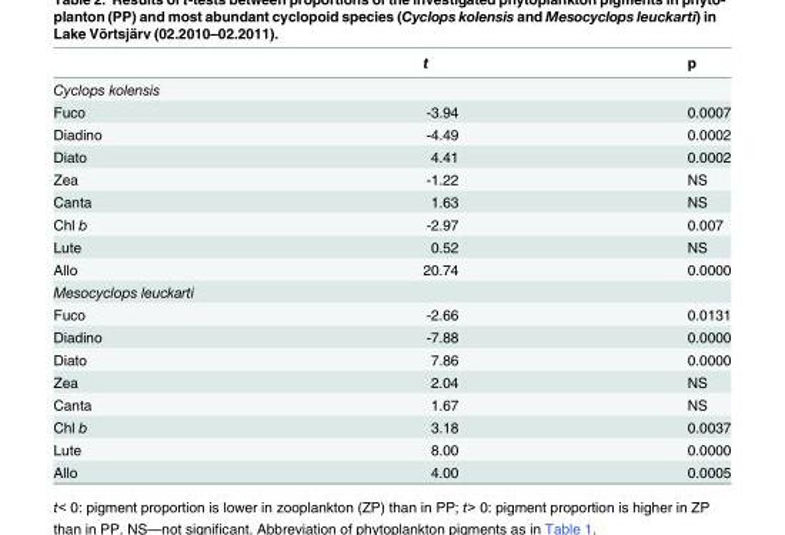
<table><thead><tr><td></td><td>t</td><td>p</td></tr></thead><tbody><tr><td colspan="3">Cyclops kolensis</td></tr><tr><td>Fuco</td><td>-3.94</td><td>0.0007</td></tr><tr><td>Diadino</td><td>-4.49</td><td>0.0002</td></tr><tr><td>Diato</td><td>4.41</td><td>0.0002</td></tr><tr><td>Zea</td><td>-1.22</td><td>NS</td></tr><tr><td>Canta</td><td>1.63</td><td>NS</td></tr><tr><td>Chl b</td><td>-2.97</td><td>0.007</td></tr><tr><td>Lute</td><td>0.52</td><td>NS</td></tr><tr><td>Allo</td><td>20.74</td><td>0.0000</td></tr><tr><td colspan="3">Mesocyclops leuckarti</td></tr><tr><td>Fuco</td><td>-2.66</td><td>0.0131</td></tr><tr><td>Diadino</td><td>-7.88</td><td>0.0000</td></tr><tr><td>Diato</td><td>7.86</td><td>0.0000</td></tr><tr><td>Zea</td><td>2.04</td><td>NS</td></tr><tr><td>Canta</td><td>1.67</td><td>NS</td></tr><tr><td>Chl b</td><td>3.18</td><td>0.0037</td></tr><tr><td>Lute</td><td>8.00</td><td>0.0000</td></tr><tr><td>Allo</td><td>4.00</td><td>0.0005</td></tr></tbody></table>